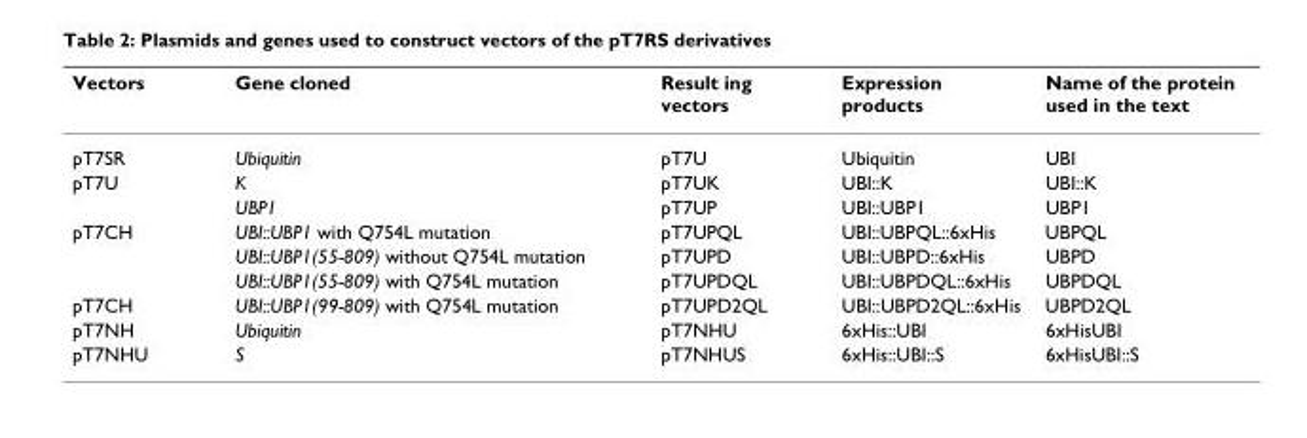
<table><thead><tr><td>Vectors</td><td>Gene cloned</td><td>Result ing vectors</td><td>Expression products</td><td>Name of the protein used in the text</td></tr></thead><tbody><tr><td>pT7SR</td><td>Ubiquitin</td><td>pT7U</td><td>Ubiquitin</td><td>UBI</td></tr><tr><td rowspan="2">pT7U</td><td>K</td><td>pT7UK</td><td>UBI::K</td><td>UBI::K</td></tr><tr><td>UBP1</td><td>pT7UP</td><td>UBI::UBP1</td><td>UBP1</td></tr><tr><td rowspan="3">pT7CH</td><td>UBI::UBP1 with Q754L mutation</td><td>pT7UPQL</td><td>UBI::UBPQL::6xHis</td><td>UBPQL</td></tr><tr><td>UBI::UBP1(55-809) without Q754L mutation</td><td>pT7UPD</td><td>UBI::UBPD::6xHis</td><td>UBPD</td></tr><tr><td>UBI::UBP1(55-809) with Q754L mutation</td><td>pT7UPDQL</td><td>UBI::UBPDQL::6xHis</td><td>UBPDQL</td></tr><tr><td>pT7CH</td><td>UBI::UBP1(99-809) with Q754L mutation</td><td>pT7UPD2QL</td><td>UBI::UBPD2QL::6xHis</td><td>UBPD2QL</td></tr><tr><td>pT7NH</td><td>Ubiquitin</td><td>pT7NHU</td><td>6xHis::UBI</td><td>6xHisUBI</td></tr><tr><td>pT7NHU</td><td>S</td><td>pT7NHUS</td><td>6xHis::UBI::S</td><td>6xHisUBI::S</td></tr></tbody></table>